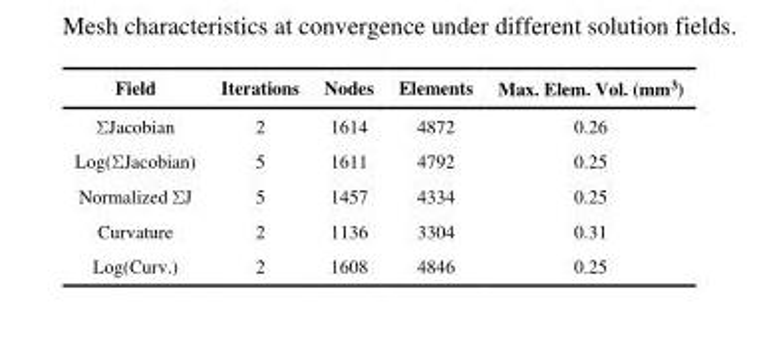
<table><thead><tr><td>Field</td><td>Iterations</td><td>Nodes</td><td>Elements</td><td>Max. Elem. Vol. (mm<sup>3</sup>)</td></tr></thead><tbody><tr><td>ΣJacobian</td><td>2</td><td>1614</td><td>4872</td><td>0.26</td></tr><tr><td>Log(ΣJacobian)</td><td>5</td><td>1611</td><td>4792</td><td>0.25</td></tr><tr><td>Normalized ΣJ</td><td>5</td><td>1457</td><td>4334</td><td>0.25</td></tr><tr><td>Curvature</td><td>2</td><td>1136</td><td>3304</td><td>0.31</td></tr><tr><td>Log(Curv.)</td><td>2</td><td>1608</td><td>4846</td><td>0.25</td></tr></tbody></table>